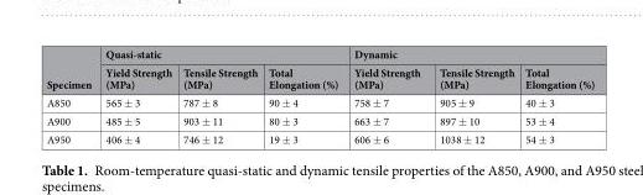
<table><thead><tr><td rowspan="2">Specimen</td><td colspan="3">Quasi-static</td><td colspan="3">Dynamic</td></tr><tr><td>Yield Strength (MPa)</td><td>Tensile Strength (MPa)</td><td>Total Elongation (%)</td><td>Yield Strength (MPa)</td><td>Tensile Strength (MPa)</td><td>Total Elongation (%)</td></tr></thead><tbody><tr><td>A850</td><td>565 ± 3</td><td>787 ± 8</td><td>90 ± 4</td><td>758 ± 7</td><td>905 ± 9</td><td>40 ± 3</td></tr><tr><td>A900</td><td>485 ± 5</td><td>903 ± 11</td><td>80 ± 3</td><td>663 ± 7</td><td>897 ± 10</td><td>53 ± 4</td></tr><tr><td>A950</td><td>406 ± 4</td><td>746 ± 12</td><td>19 ± 3</td><td>606 ± 6</td><td>1038 ± 12</td><td>54 ± 3</td></tr></tbody></table>